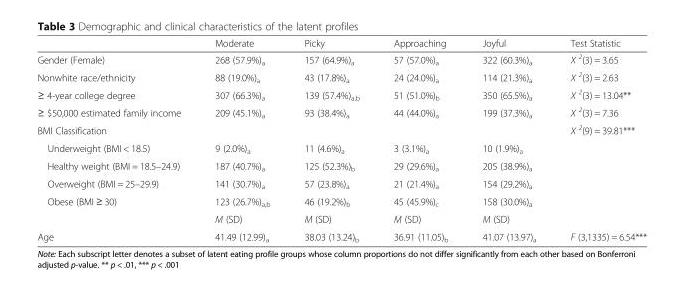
<table><thead><tr><td></td><td>Moderate</td><td>Picky</td><td>Approaching</td><td>Joyful</td><td>Test Statistic</td></tr></thead><tbody><tr><td>Gender (Female)</td><td>268 (57.9%)<sub>a</sub></td><td>157 (64.9%)<sub>a</sub></td><td>57 (57.0%)<sub>a</sub></td><td>322 (60.3%)<sub>a</sub></td><td>Χ <sup>2</sup>(3) = 3.65</td></tr><tr><td>Nonwhite race/ethnicity</td><td>88 (19.0%)<sub>a</sub></td><td>43 (17.8%)<sub>a</sub></td><td>24 (24.0%)<sub>a</sub></td><td>114 (21.3%)<sub>a</sub></td><td>Χ <sup>2</sup>(3) = 2.63</td></tr><tr><td>≥ 4-year college degree</td><td>307 (66.3%)<sub>a</sub></td><td>139 (57.4%)<sub>a,b</sub></td><td>51 (51.0%)<sub>b</sub></td><td>350 (65.5%)<sub>a</sub></td><td>Χ <sup>2</sup>(3) = 13.04**</td></tr><tr><td>≥ $50,000 estimated family income</td><td>209 (45.1%)<sub>a</sub></td><td>93 (38.4%)<sub>a</sub></td><td>44 (44.0%)<sub>a</sub></td><td>199 (37.3%)<sub>a</sub></td><td>Χ <sup>2</sup>(3) = 7.36</td></tr><tr><td>BMI Classification</td><td></td><td></td><td></td><td></td><td>Χ <sup>2</sup>(9) = 39.81***</td></tr><tr><td>Underweight (BMI &lt; 18.5)</td><td>9 (2.0%)<sub>a</sub></td><td>11 (4.6%)<sub>a</sub></td><td>3 (3.1%)<sub>a</sub></td><td>10 (1.9%)<sub>a</sub></td><td></td></tr><tr><td>Healthy weight (BMI = 18.5–24.9)</td><td>187 (40.7%)<sub>a</sub></td><td>125 (52.3%)<sub>b</sub></td><td>29 (29.6%)<sub>a</sub></td><td>205 (38.9%)<sub>a</sub></td><td></td></tr><tr><td>Overweight (BMI = 25–29.9)</td><td>141 (30.7%)<sub>a</sub></td><td>57 (23.8%)<sub>a</sub></td><td>21 (21.4%)<sub>a</sub></td><td>154 (29.2%)<sub>a</sub></td><td></td></tr><tr><td rowspan="2">Obese (BMI ≥ 30)</td><td>123 (26.7%)<sub>a,b</sub></td><td>46 (19.2%)<sub>b</sub></td><td>45 (45.9%)<sub>c</sub></td><td>158 (30.0%)<sub>a</sub></td><td></td></tr><tr><td>M (SD)</td><td>M (SD)</td><td>M (SD)</td><td>M (SD)</td><td></td></tr><tr><td>Age</td><td>41.49 (12.99)<sub>a</sub></td><td>38.03 (13.24)<sub>b</sub></td><td>36.91 (11.05)<sub>b</sub></td><td>41.07 (13.97)<sub>a</sub></td><td>F (3,1335) = 6.54***</td></tr></tbody></table>